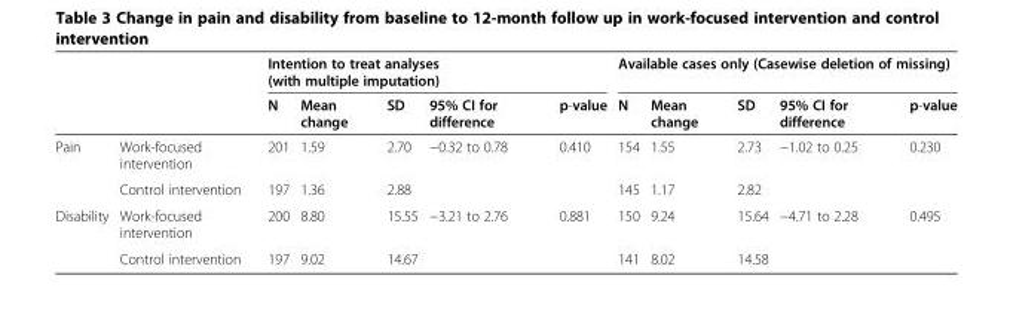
<table><thead><tr><td rowspan="2"></td><td rowspan="2"></td><td colspan="5">Intention to treat analyses (with multiple imputation)</td><td colspan="5">Available cases only (Casewise deletion of missing)</td></tr><tr><td>N</td><td>Mean change</td><td>SD</td><td>95% CI for difference</td><td>p-value</td><td>N</td><td>Mean change</td><td>SD</td><td>95% CI for difference</td><td>p-value</td></tr></thead><tbody><tr><td rowspan="2">Pain</td><td>Work-focused intervention</td><td>201</td><td>1.59</td><td>2.70</td><td rowspan="2">−0.32 to 0.78</td><td rowspan="2">0.410</td><td>154</td><td>1.55</td><td>2.73</td><td rowspan="2">−1.02 to 0.25</td><td rowspan="2">0.230</td></tr><tr><td>Control intervention</td><td>197</td><td>1.36</td><td>2.88</td><td>145</td><td>1.17</td><td>2.82</td></tr><tr><td rowspan="2">Disability</td><td>Work-focused intervention</td><td>200</td><td>8.80</td><td>15.55</td><td rowspan="2">−3.21 to 2.76</td><td rowspan="2">0.881</td><td>150</td><td>9.24</td><td>15.64</td><td rowspan="2">−4.71 to 2.28</td><td rowspan="2">0.495</td></tr><tr><td>Control intervention</td><td>197</td><td>9.02</td><td>14.67</td><td>141</td><td>8.02</td><td>14.58</td></tr></tbody></table>